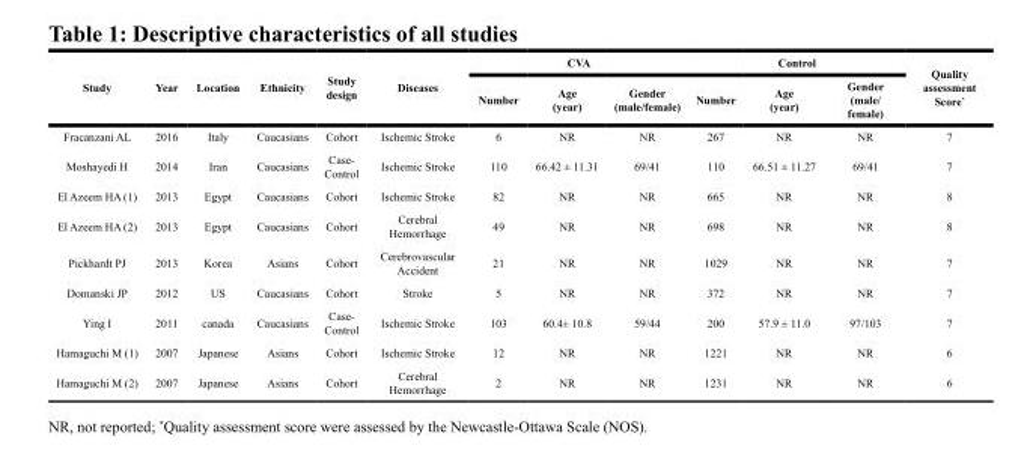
<table><thead><tr><td rowspan="2">Study</td><td rowspan="2">Year</td><td rowspan="2">Location</td><td rowspan="2">Ethnicity</td><td rowspan="2">Study design</td><td rowspan="2">Diseases</td><td colspan="3">CVA</td><td colspan="3">Control</td><td rowspan="2">Quality assessment Score*</td></tr><tr><td>Number</td><td>Age (year)</td><td>Gender (male/female)</td><td>Number</td><td>Age (year)</td><td>Gender (male/ female)</td></tr></thead><tbody><tr><td>Fracanzani AL</td><td>2016</td><td>Italy</td><td>Caucasians</td><td>Cohort</td><td>Ischemic Stroke</td><td>6</td><td>NR</td><td>NR</td><td>267</td><td>NR</td><td>NR</td><td>7</td></tr><tr><td>Moshayedi H</td><td>2014</td><td>Iran</td><td>Caucasians</td><td>Case- Control</td><td>Ischemic Stroke</td><td>110</td><td>66.42 ± 11.31</td><td>69/41</td><td>110</td><td>66.51 ± 11.27</td><td>69/41</td><td>7</td></tr><tr><td>El Azeem HA (1)</td><td>2013</td><td>Egypt</td><td>Caucasians</td><td>Cohort</td><td>Ischemic Stroke</td><td>82</td><td>NR</td><td>NR</td><td>665</td><td>NR</td><td>NR</td><td>8</td></tr><tr><td>El Azeem HA (2)</td><td>2013</td><td>Egypt</td><td>Caucasians</td><td>Cohort</td><td>Cerebral Hemorrhage</td><td>49</td><td>NR</td><td>NR</td><td>698</td><td>NR</td><td>NR</td><td>8</td></tr><tr><td>Pickhardt PJ</td><td>2013</td><td>Korea</td><td>Asians</td><td>Cohort</td><td>Cerebrovascular Accident</td><td>21</td><td>NR</td><td>NR</td><td>1029</td><td>NR</td><td>NR</td><td>7</td></tr><tr><td>Domanski JP</td><td>2012</td><td>US</td><td>Caucasians</td><td>Cohort</td><td>Stroke</td><td>5</td><td>NR</td><td>NR</td><td>372</td><td>NR</td><td>NR</td><td>7</td></tr><tr><td>Ying I</td><td>2011</td><td>canada</td><td>Caucasians</td><td>Case- Control</td><td>Ischemic Stroke</td><td>103</td><td>60.4± 10.8</td><td>59/44</td><td>200</td><td>57.9 ± 11.0</td><td>97/103</td><td>7</td></tr><tr><td>Hamaguchi M (1)</td><td>2007</td><td>Japanese</td><td>Asians</td><td>Cohort</td><td>Ischemic Stroke</td><td>12</td><td>NR</td><td>NR</td><td>1221</td><td>NR</td><td>NR</td><td>6</td></tr><tr><td>Hamaguchi M (2)</td><td>2007</td><td>Japanese</td><td>Asians</td><td>Cohort</td><td>Cerebral Hemorrhage</td><td>2</td><td>NR</td><td>NR</td><td>1231</td><td>NR</td><td>NR</td><td>6</td></tr></tbody></table>